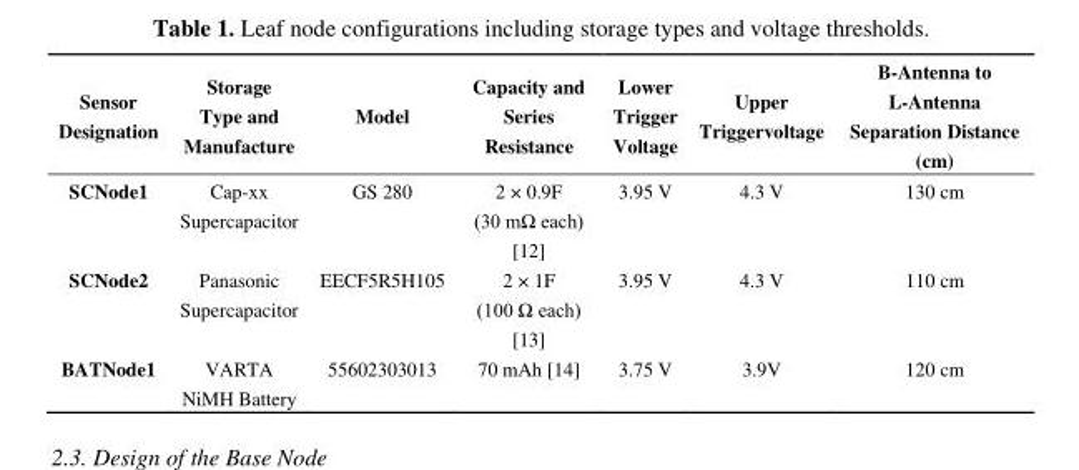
<table><thead><tr><td>Sensor Designation</td><td>Storage Type and Manufacture</td><td>Model</td><td>Capacity and Series Resistance</td><td>Lower Trigger Voltage</td><td>Upper Triggervoltage</td><td>B-Antenna to L-Antenna Separation Distance (cm)</td></tr></thead><tbody><tr><td>SCNode1</td><td>Cap-xx Supercapacitor</td><td>GS 280</td><td>2 × 0.9F (30 mΩ each) [12]</td><td>3.95 V</td><td>4.3 V</td><td>130 cm</td></tr><tr><td>SCNode2</td><td>Panasonic Supercapacitor</td><td>EECF5R5H105</td><td>2 × 1F (100 Ω each) [13]</td><td>3.95 V</td><td>4.3 V</td><td>110 cm</td></tr><tr><td>BATNode1</td><td>VARTA NiMH Battery</td><td>55602303013</td><td>70 mAh [14]</td><td>3.75 V</td><td>3.9V</td><td>120 cm</td></tr></tbody></table>